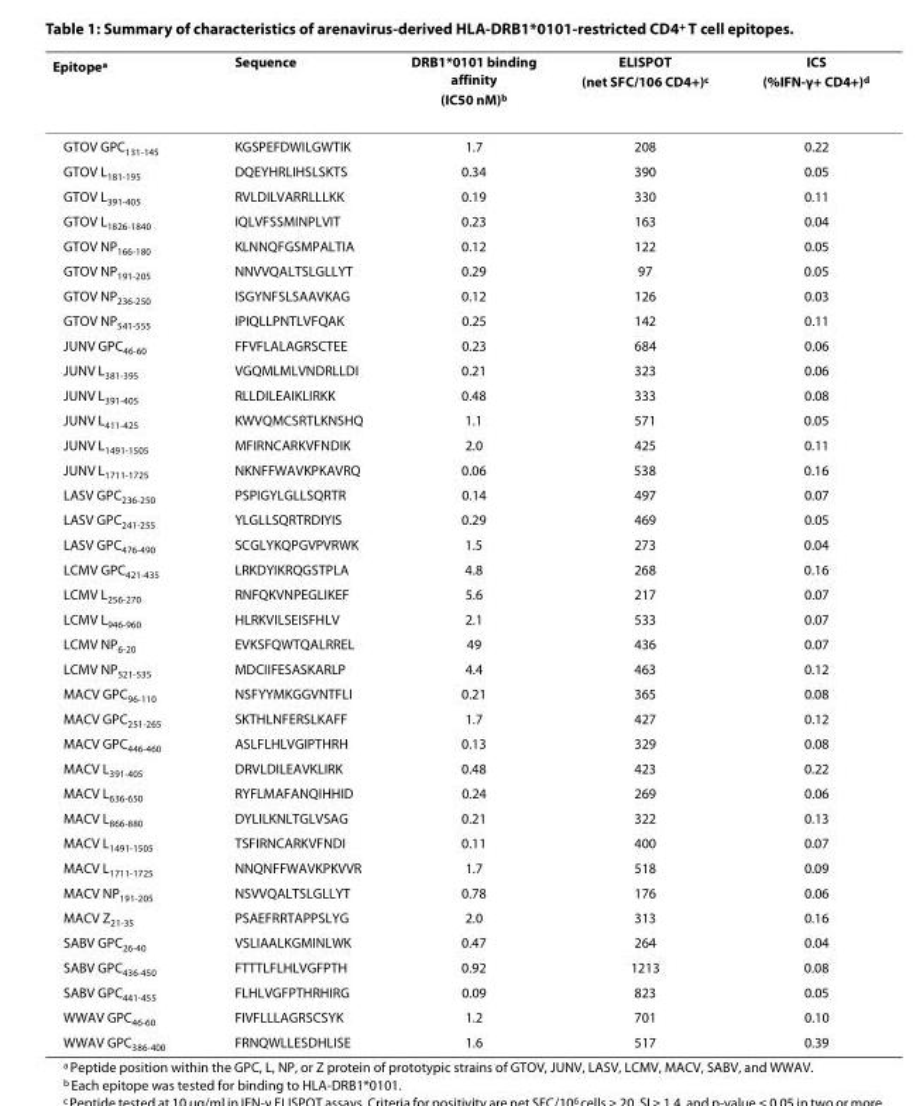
<table><thead><tr><td>Epitope<sup>a</sup></td><td>Sequence</td><td>DRB1*0101 binding affinity (IC<sub>50</sub> nM)<sup>b</sup></td><td>ELISPOT (net SFC/10<sup>6</sup> CD4<sup>+</sup>)<sup>c</sup></td><td>ICS (%IFN-γ<sup>+</sup> CD4<sup>+</sup>)<sup>d</sup></td></tr></thead><tbody><tr><td>GTOV GPC<sub>131-145</sub></td><td>KGSPEFDWILGWTIK</td><td>1.7</td><td>208</td><td>0.22</td></tr><tr><td>GTOV L<sub>181-195</sub></td><td>DQEYHRLIHSLSKTS</td><td>0.34</td><td>390</td><td>0.05</td></tr><tr><td>GTOV L<sub>391-405</sub></td><td>RVLDILVARRLLLKK</td><td>0.19</td><td>330</td><td>0.11</td></tr><tr><td>GTOV L<sub>1826-1840</sub></td><td>IQLVFSSMINPLVIT</td><td>0.23</td><td>163</td><td>0.04</td></tr><tr><td>GTOV NP<sub>166-180</sub></td><td>KLNNQFGSMPALTIA</td><td>0.12</td><td>122</td><td>0.05</td></tr><tr><td>GTOV NP<sub>191-205</sub></td><td>NNVVQALTSLGLLYT</td><td>0.29</td><td>97</td><td>0.05</td></tr><tr><td>GTOV NP<sub>236-250</sub></td><td>ISGYNFSLSAAVKAG</td><td>0.12</td><td>126</td><td>0.03</td></tr><tr><td>GTOV NP<sub>541-555</sub></td><td>IPIQLLPNTLVFQAK</td><td>0.25</td><td>142</td><td>0.11</td></tr><tr><td>JUNV GPC<sub>46-60</sub></td><td>FFVFLALAGRSCTEE</td><td>0.23</td><td>684</td><td>0.06</td></tr><tr><td>JUNV L<sub>381-395</sub></td><td>VGQMLMLVNDRLLDI</td><td>0.21</td><td>323</td><td>0.06</td></tr><tr><td>JUNV L<sub>391-405</sub></td><td>RLLDILEAIKLIRKK</td><td>0.48</td><td>333</td><td>0.08</td></tr><tr><td>JUNV L<sub>411-425</sub></td><td>KWVQMCSRTLKNSHQ</td><td>1.1</td><td>571</td><td>0.05</td></tr><tr><td>JUNV L<sub>1491-1505</sub></td><td>MFIRNCARKVFNDIK</td><td>2.0</td><td>425</td><td>0.11</td></tr><tr><td>JUNV L<sub>1711-1725</sub></td><td>NKNFFWAVKPKAVRQ</td><td>0.06</td><td>538</td><td>0.16</td></tr><tr><td>LASV GPC<sub>236-250</sub></td><td>PSPIGYLGLLSQRTR</td><td>0.14</td><td>497</td><td>0.07</td></tr><tr><td>LASV GPC<sub>241-255</sub></td><td>YLGLLSQRTRDIYIS</td><td>0.29</td><td>469</td><td>0.05</td></tr><tr><td>LASV GPC<sub>476-490</sub></td><td>SCGLYKQPGVPVRWK</td><td>1.5</td><td>273</td><td>0.04</td></tr><tr><td>LCMV GPC<sub>421-435</sub></td><td>LRKDYIKRQGSTPLA</td><td>4.8</td><td>268</td><td>0.16</td></tr><tr><td>LCMV L<sub>256-270</sub></td><td>RNFQKVNPEGLIKEF</td><td>5.6</td><td>217</td><td>0.07</td></tr><tr><td>LCMV L<sub>946-960</sub></td><td>HLRKVILSEISFHLV</td><td>2.1</td><td>533</td><td>0.07</td></tr><tr><td>LCMV NP<sub>6-20</sub></td><td>EVKSFQWTQALRREL</td><td>49</td><td>436</td><td>0.07</td></tr><tr><td>LCMV NP<sub>521-535</sub></td><td>MDCIIFESASKARLP</td><td>4.4</td><td>463</td><td>0.12</td></tr><tr><td>MACV GPC<sub>96-110</sub></td><td>NSFYYMKGGVNTFLI</td><td>0.21</td><td>365</td><td>0.08</td></tr><tr><td>MACV GPC<sub>251-265</sub></td><td>SKTHLNFERSLKAFF</td><td>1.7</td><td>427</td><td>0.12</td></tr><tr><td>MACV GPC<sub>446-460</sub></td><td>ASLFLHLVGIPTHRH</td><td>0.13</td><td>329</td><td>0.08</td></tr><tr><td>MACV L<sub>391-405</sub></td><td>DRVLDILEAVKLIRK</td><td>0.48</td><td>423</td><td>0.22</td></tr><tr><td>MACV L<sub>636-650</sub></td><td>RYFLMAFANQIHHID</td><td>0.24</td><td>269</td><td>0.06</td></tr><tr><td>MACV L<sub>866-880</sub></td><td>DYLILKNLTGLVSAG</td><td>0.21</td><td>322</td><td>0.13</td></tr><tr><td>MACV L<sub>1491-1505</sub></td><td>TSFIRNCARKVFNDI</td><td>0.11</td><td>400</td><td>0.07</td></tr><tr><td>MACV L<sub>1711-1725</sub></td><td>NNQNFFWAVKPKVVR</td><td>1.7</td><td>518</td><td>0.09</td></tr><tr><td>MACV NP<sub>191-205</sub></td><td>NSVVQALTSLGLLYT</td><td>0.78</td><td>176</td><td>0.06</td></tr><tr><td>MACV Z<sub>21-35</sub></td><td>PSAEFRRTAPPSLYG</td><td>2.0</td><td>313</td><td>0.16</td></tr><tr><td>SABV GPC<sub>26-40</sub></td><td>VSLIAALKGMINLWK</td><td>0.47</td><td>264</td><td>0.04</td></tr><tr><td>SABV GPC<sub>436-450</sub></td><td>FTTTLFLHLVGFPTH</td><td>0.92</td><td>1213</td><td>0.08</td></tr><tr><td>SABV GPC<sub>441-455</sub></td><td>FLHLVGFPTHRHIRG</td><td>0.09</td><td>823</td><td>0.05</td></tr><tr><td>WWAV GPC<sub>46-60</sub></td><td>FIVFLLLAGRSCSYK</td><td>1.2</td><td>701</td><td>0.10</td></tr><tr><td>WWAV GPC<sub>386-400</sub></td><td>FRNQWLLESDHLISE</td><td>1.6</td><td>517</td><td>0.39</td></tr></tbody></table>